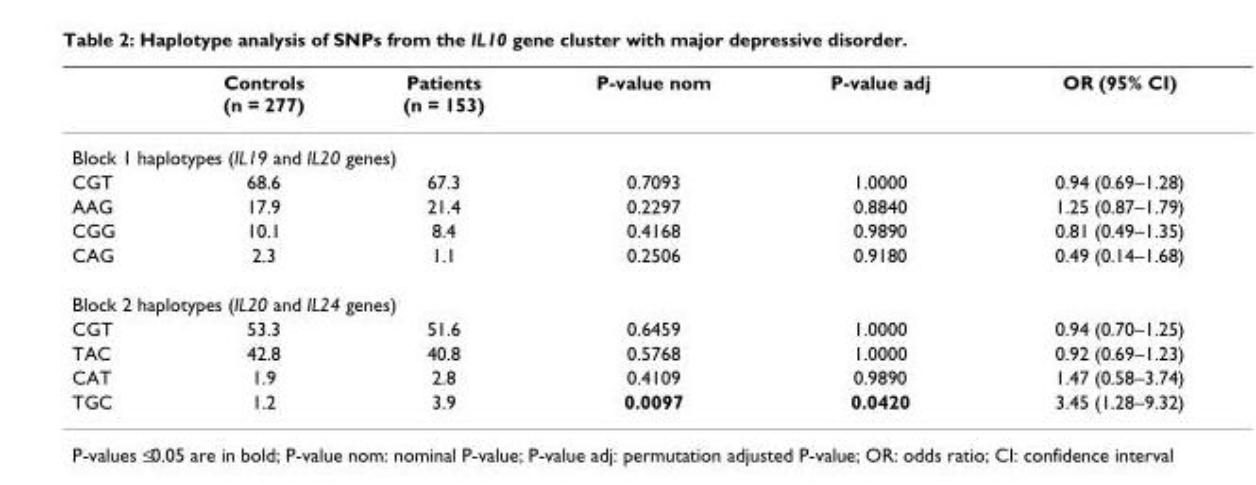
<table><thead><tr><td></td><td>Controls (n = 277)</td><td>Patients (n = 153)</td><td>P-value nom</td><td>P-value adj</td><td>OR (95% CI)</td></tr></thead><tbody><tr><td colspan="6">Block 1 haplotypes (IL19 and IL20 genes)</td></tr><tr><td>CGT</td><td>68.6</td><td>67.3</td><td>0.7093</td><td>1.0000</td><td>0.94 (0.69–1.28)</td></tr><tr><td>AAG</td><td>17.9</td><td>21.4</td><td>0.2297</td><td>0.8840</td><td>1.25 (0.87–1.79)</td></tr><tr><td>CGG</td><td>10.1</td><td>8.4</td><td>0.4168</td><td>0.9890</td><td>0.81 (0.49–1.35)</td></tr><tr><td>CAG</td><td>2.3</td><td>1.1</td><td>0.2506</td><td>0.9180</td><td>0.49 (0.14–1.68)</td></tr><tr><td colspan="6">Block 2 haplotypes (IL20 and IL24 genes)</td></tr><tr><td>CGT</td><td>53.3</td><td>51.6</td><td>0.6459</td><td>1.0000</td><td>0.94 (0.70–1.25)</td></tr><tr><td>TAC</td><td>42.8</td><td>40.8</td><td>0.5768</td><td>1.0000</td><td>0.92 (0.69–1.23)</td></tr><tr><td>CAT</td><td>1.9</td><td>2.8</td><td>0.4109</td><td>0.9890</td><td>1.47 (0.58–3.74)</td></tr><tr><td>TGC</td><td>1.2</td><td>3.9</td><td>0.0097</td><td>0.0420</td><td>3.45 (1.28–9.32)</td></tr></tbody></table>